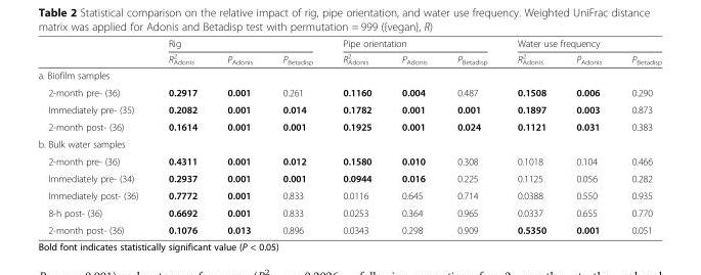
<table><thead><tr><td rowspan="2"></td><td colspan="3">Rig</td><td colspan="3">Pipe orientation</td><td colspan="3">Water use frequency</td></tr><tr><td>R<sup>2</sup> <sub>Adonis</sub></td><td>P<sub>Adonis</sub></td><td>P<sub>Betadisp</sub></td><td>R<sup>2</sup> <sub>Adonis</sub></td><td>P<sub>Adonis</sub></td><td>P<sub>Betadisp</sub></td><td>R<sup>2</sup> <sub>Adonis</sub></td><td>P<sub>Adonis</sub></td><td>P<sub>Betadisp</sub></td></tr></thead><tbody><tr><td colspan="10">a. Biofilm samples</td></tr><tr><td>2-month pre- (36)</td><td>0.2917</td><td>0.001</td><td>0.261</td><td>0.1160</td><td>0.004</td><td>0.487</td><td>0.1508</td><td>0.006</td><td>0.290</td></tr><tr><td>Immediately pre- (35)</td><td>0.2082</td><td>0.001</td><td>0.014</td><td>0.1782</td><td>0.001</td><td>0.001</td><td>0.1897</td><td>0.003</td><td>0.873</td></tr><tr><td>2-month post- (36)</td><td>0.1614</td><td>0.001</td><td>0.001</td><td>0.1925</td><td>0.001</td><td>0.024</td><td>0.1121</td><td>0.031</td><td>0.383</td></tr><tr><td colspan="10">b. Bulk water samples</td></tr><tr><td>2-month pre- (36)</td><td>0.4311</td><td>0.001</td><td>0.012</td><td>0.1580</td><td>0.010</td><td>0.308</td><td>0.1018</td><td>0.104</td><td>0.466</td></tr><tr><td>Immediately pre- (34)</td><td>0.2937</td><td>0.001</td><td>0.001</td><td>0.0944</td><td>0.016</td><td>0.225</td><td>0.1125</td><td>0.056</td><td>0.282</td></tr><tr><td>Immediately post- (36)</td><td>0.7772</td><td>0.001</td><td>0.833</td><td>0.0116</td><td>0.645</td><td>0.714</td><td>0.0388</td><td>0.550</td><td>0.935</td></tr><tr><td>8-h post- (36)</td><td>0.6692</td><td>0.001</td><td>0.833</td><td>0.0253</td><td>0.364</td><td>0.965</td><td>0.0337</td><td>0.655</td><td>0.770</td></tr><tr><td>2-month post- (36)</td><td>0.1076</td><td>0.013</td><td>0.896</td><td>0.0343</td><td>0.298</td><td>0.909</td><td>0.5350</td><td>0.001</td><td>0.051</td></tr></tbody></table>